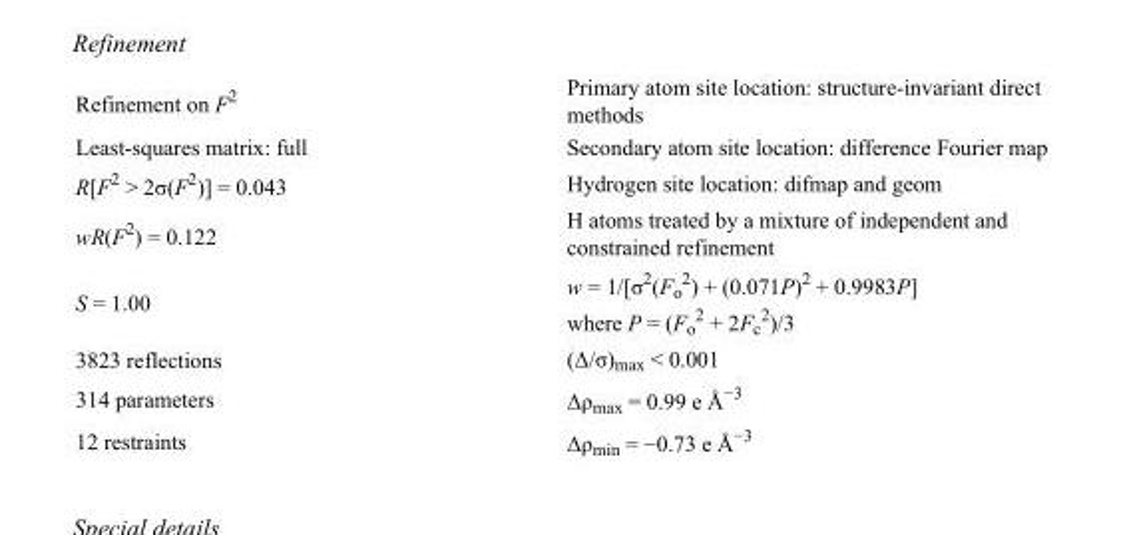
<table><tbody><tr><td>Refinement on F<sup>2</sup></td><td>Primary atom site location: structure-invariant direct methods</td></tr><tr><td>Least-squares matrix: full</td><td>Secondary atom site location: difference Fourier map</td></tr><tr><td>R[F<sup>2</sup> &gt; 2σ(F<sup>2</sup>)] = 0.043</td><td>Hydrogen site location: difmap and geom</td></tr><tr><td>wR(F<sup>2</sup>) = 0.122</td><td>H atoms treated by a mixture of independent and constrained refinement</td></tr><tr><td>S = 1.00</td><td>w = 1/[σ<sup>2</sup>(F<sub>o</sub> <sup>2</sup>) + (0.071P)<sup>2</sup> + 0.9983P] where P = (F<sub>o</sub> <sup>2</sup> + 2F<sub>c</sub> <sup>2</sup>)/3</td></tr><tr><td>3823 reflections</td><td>(Δ/σ)<sub>max</sub> &lt; 0.001</td></tr><tr><td>314 parameters</td><td>Δρ<sub>max</sub> = 0.99 e Å<sup>−3</sup></td></tr><tr><td>12 restraints</td><td>Δρ<sub>min</sub> = −0.73 e Å<sup>−3</sup></td></tr></tbody></table>